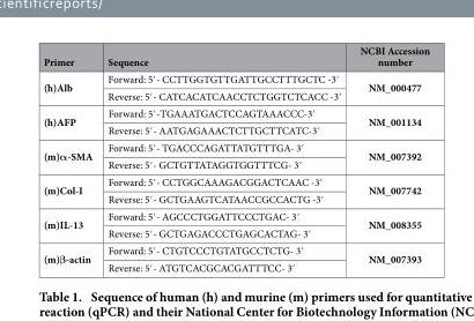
<table><thead><tr><td>Primer</td><td>Sequence</td><td>NCBI Accession number</td></tr></thead><tbody><tr><td rowspan="2">(h)Alb</td><td>Forward: 5′ - CCTTGGTGTTGATTGCCTTTGCTC -3′</td><td rowspan="2">NM_000477</td></tr><tr><td>Reverse: 5′ - CATCACATCAACCTCTGGTCTCACC -3′</td></tr><tr><td rowspan="2">(h)AFP</td><td>Forward: 5′ -TGAAATGACTCCAGTAAACCC-3′</td><td rowspan="2">NM_001134</td></tr><tr><td>Reverse: 5′ - AATGAGAAACTCTTGCTTCATC-3′</td></tr><tr><td rowspan="2">(m)α-SMA</td><td>Forward: 5′ - TGACCCAGATTATGTTTGA- 3′</td><td rowspan="2">NM_007392</td></tr><tr><td>Reverse: 5′ - GCTGTTATAGGTGGTTTCG- 3′</td></tr><tr><td rowspan="2">(m)Col-I</td><td>Forward: 5′ - CCTGGCAAAGACGGACTCAAC -3′</td><td rowspan="2">NM_007742</td></tr><tr><td>Reverse: 5′ - GCTGAAGTCATAACCGCCACTG -3′</td></tr><tr><td rowspan="2">(m)IL-13</td><td>Forward: 5′ - AGCCCTGGATTCCCTGAC- 3′</td><td rowspan="2">NM_008355</td></tr><tr><td>Reverse: 5′ - GCTGAGACCCTGAGCACTAG- 3′</td></tr><tr><td rowspan="2">(m)β-actin</td><td>Forward: 5′ - CTGTCCCTGTATGCCTCTG- 3′</td><td rowspan="2">NM_007393</td></tr><tr><td>Reverse: 5′ - ATGTCACGCACGATTTCC- 3′</td></tr></tbody></table>